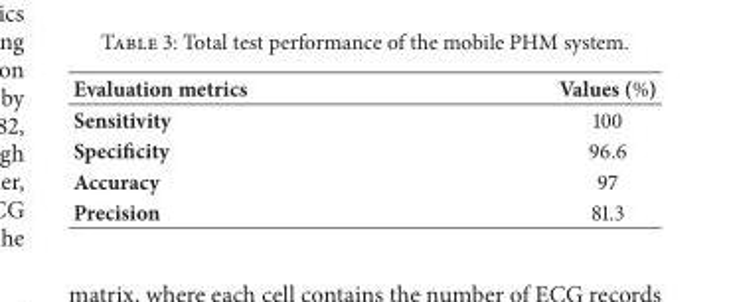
<table><thead><tr><td>Evaluation metrics</td><td>Values (%)</td></tr></thead><tbody><tr><td>Sensitivity</td><td>100</td></tr><tr><td>Specificity</td><td>96.6</td></tr><tr><td>Accuracy</td><td>97</td></tr><tr><td>Precision</td><td>81.3</td></tr></tbody></table>